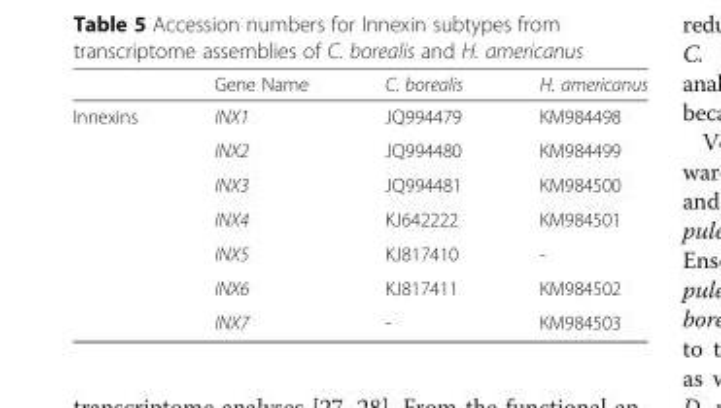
<table><thead><tr><td></td><td>Gene Name</td><td>C. borealis</td><td>H. americanus</td></tr></thead><tbody><tr><td rowspan="7">Innexins</td><td>INX1</td><td>JQ994479</td><td>KM984498</td></tr><tr><td>INX2</td><td>JQ994480</td><td>KM984499</td></tr><tr><td>INX3</td><td>JQ994481</td><td>KM984500</td></tr><tr><td>INX4</td><td>KJ642222</td><td>KM984501</td></tr><tr><td>INX5</td><td>KJ817410</td><td>-</td></tr><tr><td>INX6</td><td>KJ817411</td><td>KM984502</td></tr><tr><td>INX7</td><td>-</td><td>KM984503</td></tr></tbody></table>